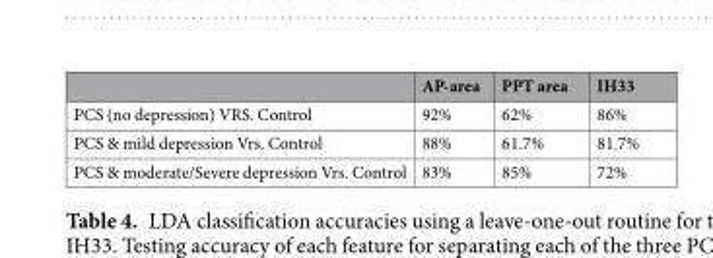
<table><thead><tr><td></td><td>AP-area</td><td>PPT area</td><td>IH33</td></tr></thead><tbody><tr><td>PCS (no depression) VRS. Control</td><td>92%</td><td>62%</td><td>86%</td></tr><tr><td>PCS &amp; mild depression Vrs. Control</td><td>88%</td><td>61.7%</td><td>81.7%</td></tr><tr><td>PCS &amp; moderate/Severe depression Vrs. Control</td><td>83%</td><td>85%</td><td>72%</td></tr></tbody></table>